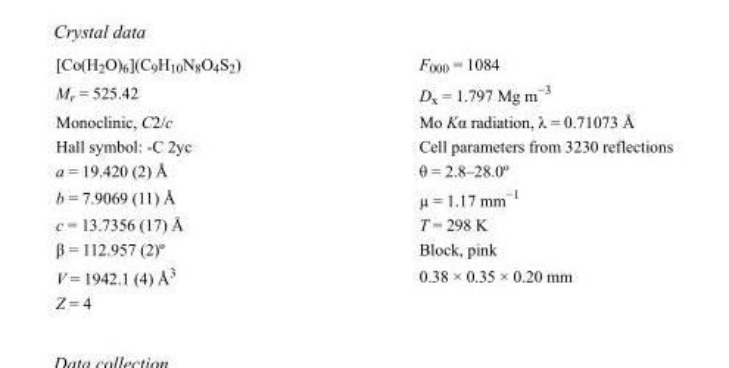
<table><tbody><tr><td>[Co(H<sub>2</sub>O)<sub>6</sub>](C<sub>9</sub>H<sub>10</sub>N<sub>8</sub>O<sub>4</sub>S<sub>2</sub>)</td><td>F000 = 1084</td></tr><tr><td>M<sub>r</sub> = 525.42</td><td>D<sub>x</sub> = 1.797 Mg m<sup>−3</sup></td></tr><tr><td>Monoclinic, C2/c</td><td>Mo Kα radiation, λ = 0.71073 Å</td></tr><tr><td>Hall symbol: -C 2yc</td><td>Cell parameters from 3230 reflections</td></tr><tr><td>a = 19.420 (2) Å</td><td>θ = 2.8–28.0º</td></tr><tr><td>b = 7.9069 (11) Å</td><td>µ = 1.17 mm<sup>−1</sup></td></tr><tr><td>c = 13.7356 (17) Å</td><td>T = 298 K</td></tr><tr><td>β = 112.957 (2)º</td><td>Block, pink</td></tr><tr><td>V = 1942.1 (4) Å<sup>3</sup></td><td>0.38 × 0.35 × 0.20 mm</td></tr><tr><td>Z = 4</td><td></td></tr></tbody></table>